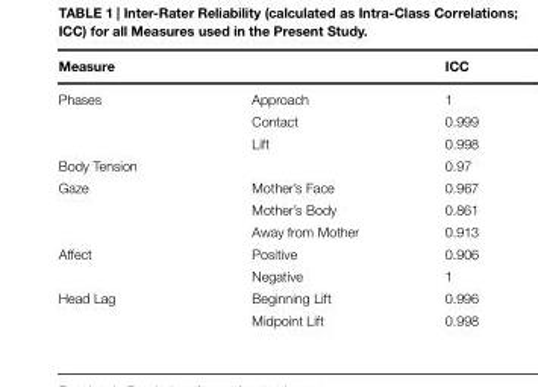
<table><thead><tr><td>Measure</td><td></td><td>ICC</td></tr></thead><tbody><tr><td rowspan="3">Phases</td><td>Approach</td><td>1</td></tr><tr><td>Contact</td><td>0.999</td></tr><tr><td>Lift</td><td>0.998</td></tr><tr><td>Body Tension</td><td></td><td>0.97</td></tr><tr><td rowspan="3">Gaze</td><td>Mother’s Face</td><td>0.967</td></tr><tr><td>Mother’s Body</td><td>0.861</td></tr><tr><td>Away from Mother</td><td>0.913</td></tr><tr><td rowspan="2">Affect</td><td>Positive</td><td>0.906</td></tr><tr><td>Negative</td><td>1</td></tr><tr><td rowspan="2">Head Lag</td><td>Beginning Lift</td><td>0.996</td></tr><tr><td>Midpoint Lift</td><td>0.998</td></tr></tbody></table>